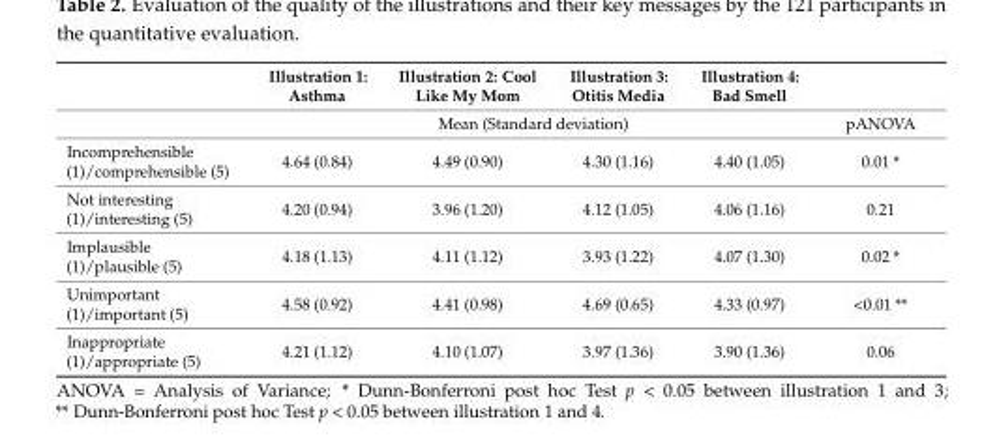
<table><thead><tr><td></td><td>Illustration 1: Asthma</td><td>Illustration 2: Cool Like My Mom</td><td>Illustration 3: Otitis Media</td><td>Illustration 4: Bad Smell</td><td></td></tr></thead><tbody><tr><td></td><td colspan="4">Mean (Standard deviation)</td><td>pANOVA</td></tr><tr><td>Incomprehensible (1)/comprehensible (5)</td><td>4.64 (0.84)</td><td>4.49 (0.90)</td><td>4.30 (1.16)</td><td>4.40 (1.05)</td><td>0.01 *</td></tr><tr><td>Not interesting (1)/interesting (5)</td><td>4.20 (0.94)</td><td>3.96 (1.20)</td><td>4.12 (1.05)</td><td>4.06 (1.16)</td><td>0.21</td></tr><tr><td>Implausible (1)/plausible (5)</td><td>4.18 (1.13)</td><td>4.11 (1.12)</td><td>3.93 (1.22)</td><td>4.07 (1.30)</td><td>0.02 *</td></tr><tr><td>Unimportant (1)/important (5)</td><td>4.58 (0.92)</td><td>4.41 (0.98)</td><td>4.69 (0.65)</td><td>4.33 (0.97)</td><td>&lt;0.01 **</td></tr><tr><td>Inappropriate (1)/appropriate (5)</td><td>4.21 (1.12)</td><td>4.10 (1.07)</td><td>3.97 (1.36)</td><td>3.90 (1.36)</td><td>0.06</td></tr></tbody></table>